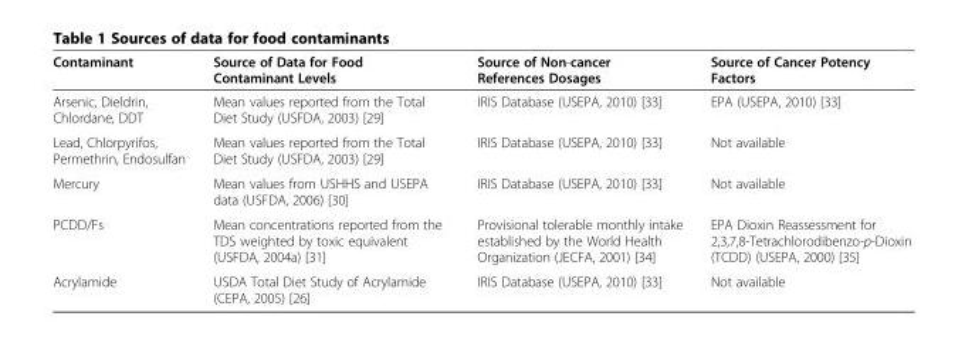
<table><thead><tr><td>Contaminant</td><td>Source of Data for Food Contaminant Levels</td><td>Source of Non-cancer References Dosages</td><td>Source of Cancer Potency Factors</td></tr></thead><tbody><tr><td>Arsenic, Dieldrin, Chlordane, DDT</td><td>Mean values reported from the Total Diet Study (USFDA, 2003) [29]</td><td>IRIS Database (USEPA, 2010) [33]</td><td>EPA (USEPA, 2010) [33]</td></tr><tr><td>Lead, Chlorpyrifos, Permethrin, Endosulfan</td><td>Mean values reported from the Total Diet Study (USFDA, 2003) [29]</td><td>IRIS Database (USEPA, 2010) [33]</td><td>Not available</td></tr><tr><td>Mercury</td><td>Mean values from USHHS and USEPA data (USFDA, 2006) [30]</td><td>IRIS Database (USEPA, 2010) [33]</td><td>Not available</td></tr><tr><td>PCDD/Fs</td><td>Mean concentrations reported from the TDS weighted by toxic equivalent (USFDA, 2004a) [31]</td><td>Provisional tolerable monthly intake established by the World Health Organization (JECFA, 2001) [34]</td><td>EPA Dioxin Reassessment for 2,3,7,8-Tetrachlorodibenzo-p-Dioxin (TCDD) (USEPA, 2000) [35]</td></tr><tr><td>Acrylamide</td><td>USDA Total Diet Study of Acrylamide (CEPA, 2005) [26]</td><td>IRIS Database (USEPA, 2010) [33]</td><td>Not available</td></tr></tbody></table>